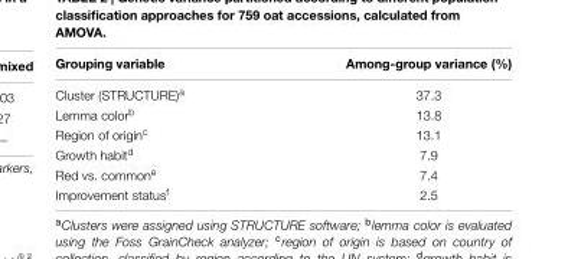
<table><thead><tr><td>Grouping variable</td><td>Among-group variance (%)</td></tr></thead><tbody><tr><td>Cluster (STRUCTURE)<sup>a</sup></td><td>37.3</td></tr><tr><td>Lemma color<sup>b</sup></td><td>13.8</td></tr><tr><td>Region of origin<sup>c</sup></td><td>13.1</td></tr><tr><td>Growth habit<sup>d</sup></td><td>7.9</td></tr><tr><td>Red vs. common<sup>e</sup></td><td>7.4</td></tr><tr><td>Improvement status<sup>f</sup></td><td>2.5</td></tr></tbody></table>